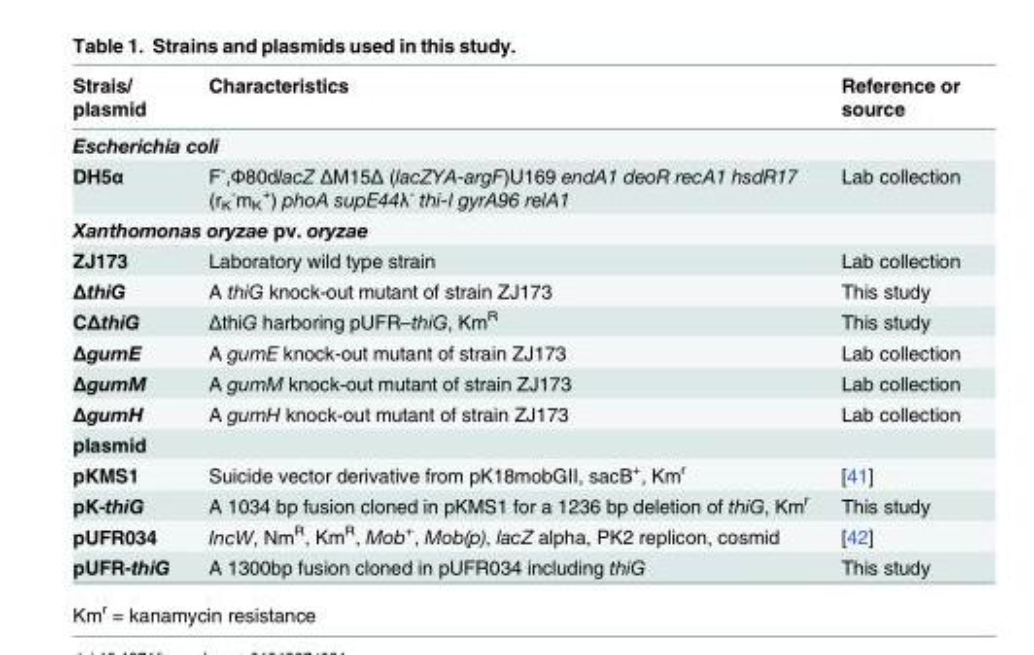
<table><thead><tr><td>Strais/ plasmid</td><td>Characteristics</td><td>Reference or source</td></tr></thead><tbody><tr><td colspan="3">Escherichia coli</td></tr><tr><td>DH5α</td><td>F<sup>-</sup>,Ф80dlacZ ΔM15Δ (lacZYA-argF)U169 endA1 deoR recA1 hsdR17 (r<sub>K</sub> <sup>-</sup>m<sub>K</sub> <sup>+</sup>) phoA supE44λ<sup>-</sup> thi-l gyrA96 relA1</td><td>Lab collection</td></tr><tr><td colspan="3">Xanthomonas oryzae pv. oryzae</td></tr><tr><td>ZJ173</td><td>Laboratory wild type strain</td><td>Lab collection</td></tr><tr><td>ΔthiG</td><td>A thiG knock-out mutant of strain ZJ173</td><td>This study</td></tr><tr><td>CΔthiG</td><td>ΔthiG harboring pUFR–thiG, Km<sup>R</sup></td><td>This study</td></tr><tr><td>ΔgumE</td><td>A gumE knock-out mutant of strain ZJ173</td><td>Lab collection</td></tr><tr><td>ΔgumM</td><td>A gumM knock-out mutant of strain ZJ173</td><td>Lab collection</td></tr><tr><td>ΔgumH</td><td>A gumH knock-out mutant of strain ZJ173</td><td>Lab collection</td></tr><tr><td colspan="3">plasmid</td></tr><tr><td>pKMS1</td><td>Suicide vector derivative from pK18mobGII, sacB<sup>+</sup>, Km<sup>r</sup></td><td>[41]</td></tr><tr><td>pK-thiG</td><td>A 1034 bp fusion cloned in pKMS1 for a 1236 bp deletion of thiG, Km<sup>r</sup></td><td>This study</td></tr><tr><td>pUFR034</td><td>IncW, Nm<sup>R</sup>, Km<sup>R</sup>, Mob<sup>+</sup>, Mob(p), lacZ alpha, PK2 replicon, cosmid</td><td>[42]</td></tr><tr><td>pUFR-thiG</td><td>A 1300bp fusion cloned in pUFR034 including thiG</td><td>This study</td></tr></tbody></table>